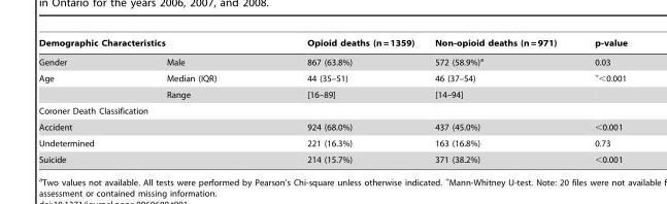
<table><thead><tr><td colspan="2">Demographic Characteristics</td><td rowspan="2">Opioid deaths (n = 1359) 867 (63.8%)</td><td rowspan="2">Non-opioid deaths (n = 971) 572 (58.9%)<sup>a</sup></td><td rowspan="2">p-value 0.03</td></tr><tr><td>Gender</td><td>Male</td></tr></thead><tbody><tr><td rowspan="2">Age</td><td>Median (IQR)</td><td>44 (35–51)</td><td>46 (37–54)</td><td><sup>+</sup>&lt;0.001</td></tr><tr><td>Range</td><td>[16–89]</td><td>[14–94]</td><td></td></tr><tr><td colspan="5">Coroner Death Classification</td></tr><tr><td colspan="2">Accident</td><td>924 (68.0%)</td><td>437 (45.0%)</td><td>&lt;0.001</td></tr><tr><td colspan="2">Undetermined</td><td>221 (16.3%)</td><td>163 (16.8%)</td><td>0.73</td></tr><tr><td colspan="2">Suicide</td><td>214 (15.7%)</td><td>371 (38.2%)</td><td>&lt;0.001</td></tr></tbody></table>